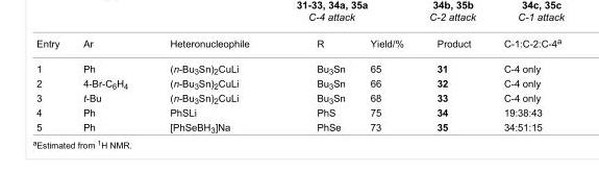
<table><tbody><tr><td>Entry</td><td>Ar</td><td>Heteronucleophile</td><td>R</td><td>Yield/%</td><td>Product</td><td>C-1:C-2:C-4<sup>a</sup></td></tr><tr><td>1</td><td>Ph</td><td>(n-Bu<sub>3</sub>Sn)<sub>2</sub>CuLi</td><td>Bu<sub>3</sub>Sn</td><td>65</td><td>31</td><td>C-4 only</td></tr><tr><td>2</td><td>4-Br-C<sub>6</sub>H<sub>4</sub></td><td>(n-Bu<sub>3</sub>Sn)<sub>2</sub>CuLi</td><td>Bu<sub>3</sub>Sn</td><td>66</td><td>32</td><td>C-4 only</td></tr><tr><td>3</td><td>t-Bu</td><td>(n-Bu<sub>3</sub>Sn)<sub>2</sub>CuLi</td><td>Bu<sub>3</sub>Sn</td><td>68</td><td>33</td><td>C-4 only</td></tr><tr><td>4</td><td>Ph</td><td>PhSLi</td><td>PhS</td><td>75</td><td>34</td><td>19:38:43</td></tr><tr><td>5</td><td>Ph</td><td>[PhSeBH<sub>3</sub>]Na</td><td>PhSe</td><td>73</td><td>35</td><td>34:51:15</td></tr></tbody></table>